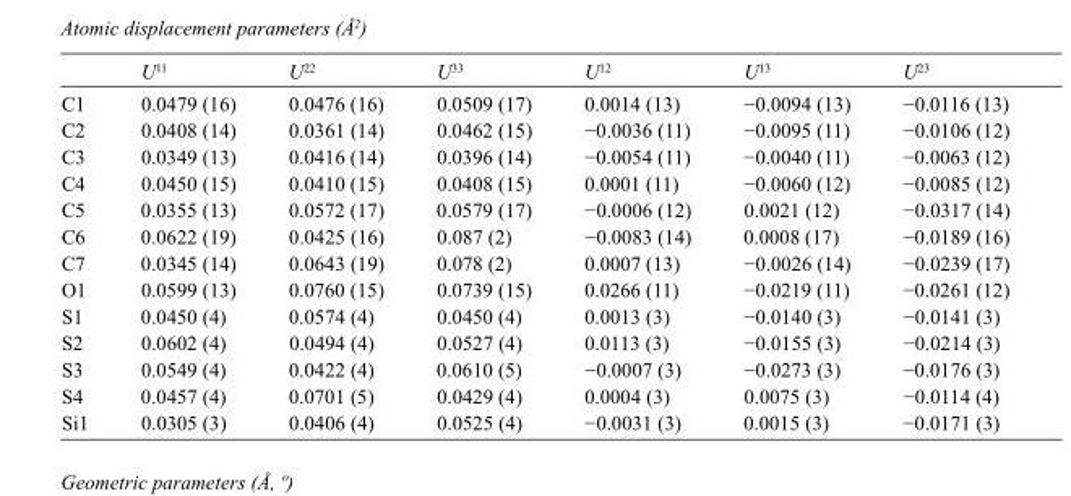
<table><thead><tr><td></td><td>U<sup>11</sup></td><td>U<sup>22</sup></td><td>U<sup>33</sup></td><td>U<sup>12</sup></td><td>U<sup>13</sup></td><td>U<sup>23</sup></td></tr></thead><tbody><tr><td>C1</td><td>0.0479 (16)</td><td>0.0476 (16)</td><td>0.0509 (17)</td><td>0.0014 (13)</td><td>−0.0094 (13)</td><td>−0.0116 (13)</td></tr><tr><td>C2</td><td>0.0408 (14)</td><td>0.0361 (14)</td><td>0.0462 (15)</td><td>−0.0036 (11)</td><td>−0.0095 (11)</td><td>−0.0106 (12)</td></tr><tr><td>C3</td><td>0.0349 (13)</td><td>0.0416 (14)</td><td>0.0396 (14)</td><td>−0.0054 (11)</td><td>−0.0040 (11)</td><td>−0.0063 (12)</td></tr><tr><td>C4</td><td>0.0450 (15)</td><td>0.0410 (15)</td><td>0.0408 (15)</td><td>0.0001 (11)</td><td>−0.0060 (12)</td><td>−0.0085 (12)</td></tr><tr><td>C5</td><td>0.0355 (13)</td><td>0.0572 (17)</td><td>0.0579 (17)</td><td>−0.0006 (12)</td><td>0.0021 (12)</td><td>−0.0317 (14)</td></tr><tr><td>C6</td><td>0.0622 (19)</td><td>0.0425 (16)</td><td>0.087 (2)</td><td>−0.0083 (14)</td><td>0.0008 (17)</td><td>−0.0189 (16)</td></tr><tr><td>C7</td><td>0.0345 (14)</td><td>0.0643 (19)</td><td>0.078 (2)</td><td>0.0007 (13)</td><td>−0.0026 (14)</td><td>−0.0239 (17)</td></tr><tr><td>O1</td><td>0.0599 (13)</td><td>0.0760 (15)</td><td>0.0739 (15)</td><td>0.0266 (11)</td><td>−0.0219 (11)</td><td>−0.0261 (12)</td></tr><tr><td>S1</td><td>0.0450 (4)</td><td>0.0574 (4)</td><td>0.0450 (4)</td><td>0.0013 (3)</td><td>−0.0140 (3)</td><td>−0.0141 (3)</td></tr><tr><td>S2</td><td>0.0602 (4)</td><td>0.0494 (4)</td><td>0.0527 (4)</td><td>0.0113 (3)</td><td>−0.0155 (3)</td><td>−0.0214 (3)</td></tr><tr><td>S3</td><td>0.0549 (4)</td><td>0.0422 (4)</td><td>0.0610 (5)</td><td>−0.0007 (3)</td><td>−0.0273 (3)</td><td>−0.0176 (3)</td></tr><tr><td>S4</td><td>0.0457 (4)</td><td>0.0701 (5)</td><td>0.0429 (4)</td><td>0.0004 (3)</td><td>0.0075 (3)</td><td>−0.0114 (4)</td></tr><tr><td>Si1</td><td>0.0305 (3)</td><td>0.0406 (4)</td><td>0.0525 (4)</td><td>−0.0031 (3)</td><td>0.0015 (3)</td><td>−0.0171 (3)</td></tr></tbody></table>